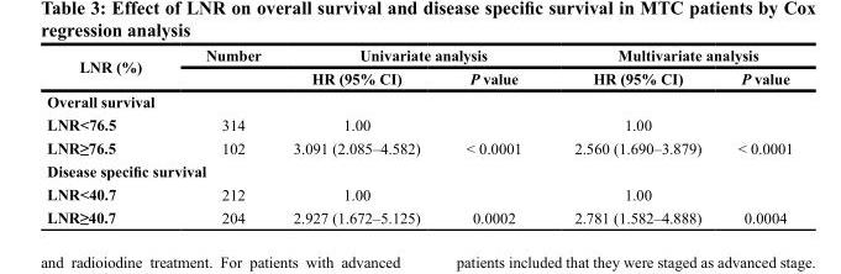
<table><thead><tr><td rowspan="2">LNR (%)</td><td rowspan="2">Number</td><td colspan="2">Univariate analysis</td><td colspan="2">Multivariate analysis</td></tr><tr><td>HR (95% CI)</td><td>P value</td><td>HR (95% CI)</td><td>P value</td></tr></thead><tbody><tr><td colspan="6">Overall survival</td></tr><tr><td>LNR&lt;76.5</td><td>314</td><td>1.00</td><td></td><td>1.00</td><td></td></tr><tr><td>LNR≥76.5</td><td>102</td><td>3.091 (2.085–4.582)</td><td>&lt; 0.0001</td><td>2.560 (1.690–3.879)</td><td>&lt; 0.0001</td></tr><tr><td colspan="6">Disease specific survival</td></tr><tr><td>LNR&lt;40.7</td><td>212</td><td>1.00</td><td></td><td>1.00</td><td></td></tr><tr><td>LNR≥40.7</td><td>204</td><td>2.927 (1.672–5.125)</td><td>0.0002</td><td>2.781 (1.582–4.888)</td><td>0.0004</td></tr></tbody></table>